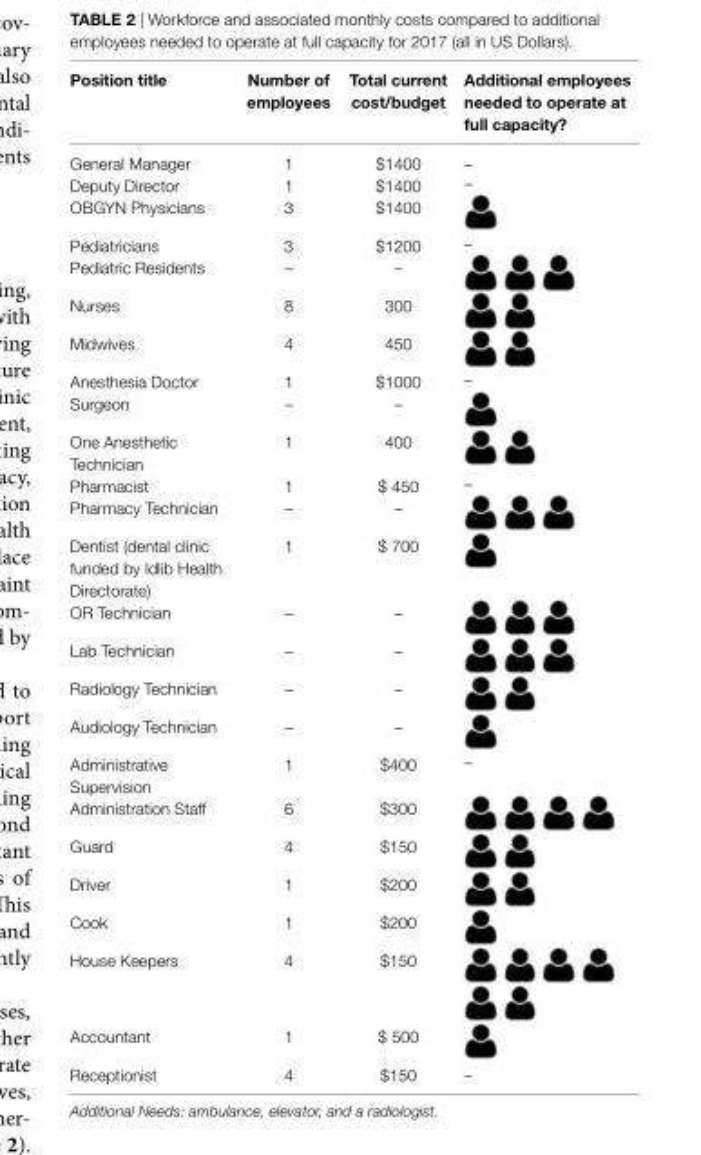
<table><thead><tr><td>Position title</td><td>number of employees</td><td>total current cost/budget</td><td>additional employees needed to operate at full capacity?</td></tr></thead><tbody><tr><td>General Manager</td><td>1</td><td>$1400</td><td>–</td></tr><tr><td>Deputy Director</td><td>1</td><td>$1400</td><td>–</td></tr><tr><td>OBGYN Physicians</td><td>3</td><td>$1400</td><td></td></tr><tr><td>Pediatricians</td><td>3</td><td>$1200</td><td>–</td></tr><tr><td>Pediatric Residents</td><td>–</td><td>–</td><td></td></tr><tr><td>Nurses</td><td>8</td><td>300</td><td></td></tr><tr><td>Midwives</td><td>4</td><td>450</td><td></td></tr><tr><td>Anesthesia Doctor</td><td>1</td><td>$1000</td><td>–</td></tr><tr><td>Surgeon</td><td>–</td><td>–</td><td></td></tr><tr><td>One Anesthetic Technician</td><td>1</td><td>400</td><td></td></tr><tr><td>Pharmacist</td><td>1</td><td>$ 450</td><td>–</td></tr><tr><td>Pharmacy Technician</td><td>–</td><td>–</td><td></td></tr><tr><td>Dentist (dental clinic funded by Idlib Health Directorate)</td><td>1</td><td>$ 700</td><td></td></tr><tr><td>OR Technician</td><td>–</td><td>–</td><td></td></tr><tr><td>Lab Technician</td><td>–</td><td>–</td><td></td></tr><tr><td>Radiology Technician</td><td>–</td><td>–</td><td></td></tr><tr><td>Audiology Technician</td><td>–</td><td>–</td><td></td></tr><tr><td>Administrative Supervision</td><td>1</td><td>$400</td><td>–</td></tr><tr><td>Administration Staff</td><td>6</td><td>$300</td><td></td></tr><tr><td>Guard</td><td>4</td><td>$150</td><td></td></tr><tr><td>Driver</td><td>1</td><td>$200</td><td></td></tr><tr><td>Cook</td><td>1</td><td>$200</td><td></td></tr><tr><td>House Keepers</td><td>4</td><td>$150</td><td></td></tr><tr><td>Accountant</td><td>1</td><td>$ 500</td><td></td></tr><tr><td>Receptionist</td><td>4</td><td>$150</td><td>–</td></tr></tbody></table>